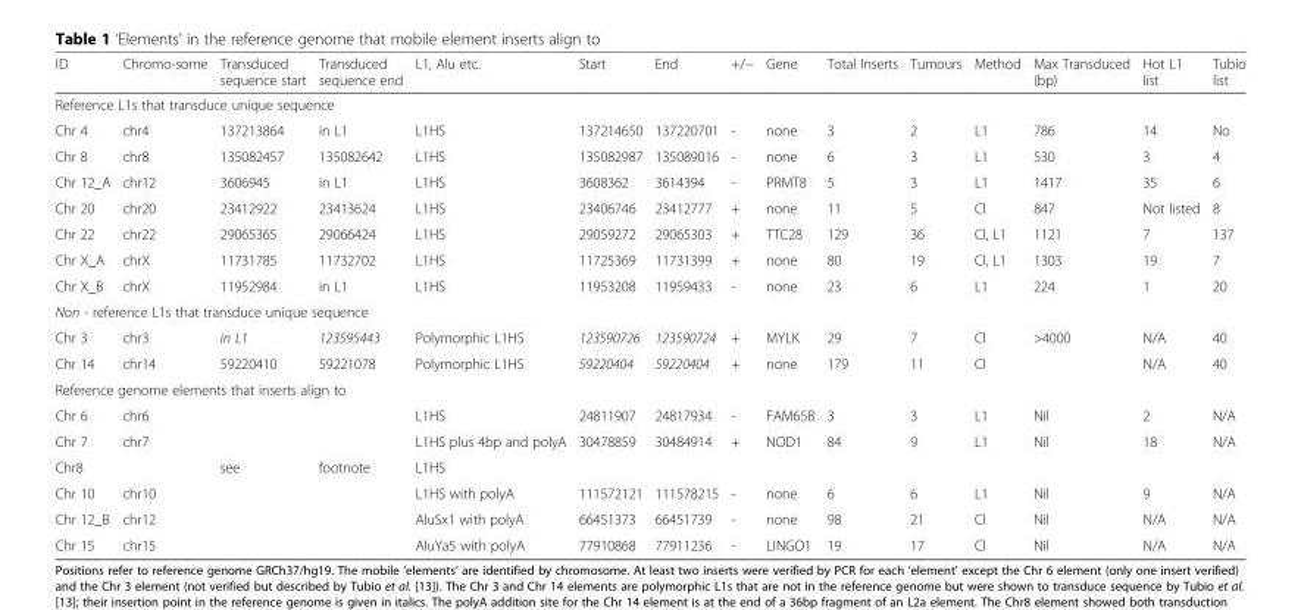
<table><thead><tr><td>ID</td><td>Chromo-some</td><td>Transduced sequence start</td><td>Transduced sequence end</td><td>L1, Alu etc.</td><td>Start</td><td>End</td><td>+/−</td><td>Gene</td><td>Total Inserts</td><td>Tumours</td><td>Method</td><td>Max Transduced (bp)</td><td>Hot L1 list</td><td>Tubio list</td></tr></thead><tbody><tr><td colspan="15">Reference L1s that transduce unique sequence</td></tr><tr><td>Chr 4</td><td>chr4</td><td>137213864</td><td>in L1</td><td>L1HS</td><td>137214650</td><td>137220701</td><td>-</td><td>none</td><td>3</td><td>2</td><td>L1</td><td>786</td><td>14</td><td>No</td></tr><tr><td>Chr 8</td><td>chr8</td><td>135082457</td><td>135082642</td><td>L1HS</td><td>135082987</td><td>135089016</td><td>-</td><td>none</td><td>6</td><td>3</td><td>L1</td><td>530</td><td>3</td><td>4</td></tr><tr><td>Chr 12_A</td><td>chr12</td><td>3606945</td><td>in L1</td><td>L1HS</td><td>3608362</td><td>3614394</td><td>-</td><td>PRMT8</td><td>5</td><td>3</td><td>L1</td><td>1417</td><td>35</td><td>6</td></tr><tr><td>Chr 20</td><td>chr20</td><td>23412922</td><td>23413624</td><td>L1HS</td><td>23406746</td><td>23412777</td><td>+</td><td>none</td><td>11</td><td>5</td><td>Cl</td><td>847</td><td>Not listed</td><td>8</td></tr><tr><td>Chr 22</td><td>chr22</td><td>29065365</td><td>29066424</td><td>L1HS</td><td>29059272</td><td>29065303</td><td>+</td><td>TTC28</td><td>129</td><td>36</td><td>Cl, L1</td><td>1121</td><td>7</td><td>137</td></tr><tr><td>Chr X_A</td><td>chrX</td><td>11731785</td><td>11732702</td><td>L1HS</td><td>11725369</td><td>11731399</td><td>+</td><td>none</td><td>80</td><td>19</td><td>Cl, L1</td><td>1303</td><td>19</td><td>7</td></tr><tr><td>Chr X_B</td><td>chrX</td><td>11952984</td><td>in L1</td><td>L1HS</td><td>11953208</td><td>11959433</td><td>-</td><td>none</td><td>23</td><td>6</td><td>L1</td><td>224</td><td>1</td><td>20</td></tr><tr><td colspan="15">Non - reference L1s that transduce unique sequence</td></tr><tr><td>Chr 3</td><td>chr3</td><td>in L1</td><td>123595443</td><td>Polymorphic L1HS</td><td>123590726</td><td>123590724</td><td>+</td><td>MYLK</td><td>29</td><td>7</td><td>Cl</td><td>&gt;4000</td><td>N/A</td><td>40</td></tr><tr><td>Chr 14</td><td>chr14</td><td>59220410</td><td>59221078</td><td>Polymorphic L1HS</td><td>59220404</td><td>59220404</td><td>+</td><td>none</td><td>179</td><td>11</td><td>Cl</td><td></td><td>N/A</td><td>40</td></tr><tr><td colspan="15">Reference genome elements that inserts align to</td></tr><tr><td>Chr 6</td><td>chr6</td><td></td><td></td><td>L1HS</td><td>24811907</td><td>24817934</td><td>-</td><td>FAM65B</td><td>3</td><td>3</td><td>L1</td><td>Nil</td><td>2</td><td>N/A</td></tr><tr><td>Chr 7</td><td>chr7</td><td></td><td></td><td>L1HS plus 4bp and polyA</td><td>30478859</td><td>30484914</td><td>+</td><td>NOD1</td><td>84</td><td>9</td><td>L1</td><td>Nil</td><td>18</td><td>N/A</td></tr><tr><td>Chr8</td><td></td><td>see</td><td>footnote</td><td>L1HS</td><td></td><td></td><td></td><td></td><td></td><td></td><td></td><td></td><td></td><td></td></tr><tr><td>Chr 10</td><td>chr10</td><td></td><td></td><td>L1HS with polyA</td><td>111572121</td><td>111578215</td><td>-</td><td>none</td><td>6</td><td>6</td><td>L1</td><td>Nil</td><td>9</td><td>N/A</td></tr><tr><td>Chr 12_B</td><td>chr12</td><td></td><td></td><td>AluSx1 with polyA</td><td>66451373</td><td>66451739</td><td>-</td><td>none</td><td>98</td><td>21</td><td>Cl</td><td>Nil</td><td>N/A</td><td>N/A</td></tr><tr><td>Chr 15</td><td>chr15</td><td></td><td></td><td>AluYa5 with polyA</td><td>77910868</td><td>77911236</td><td>-</td><td>LINGO1</td><td>19</td><td>17</td><td>Cl</td><td>Nil</td><td>N/A</td><td>N/A</td></tr></tbody></table>